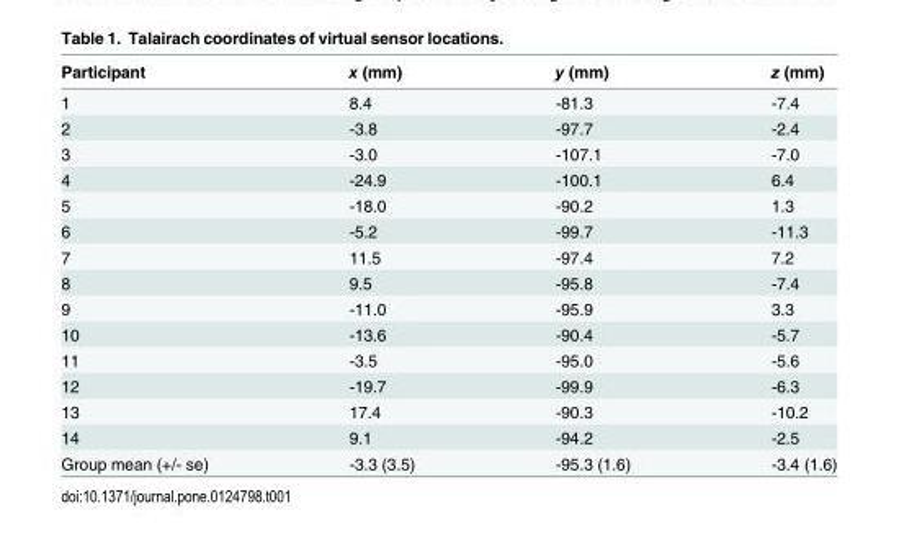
<table><thead><tr><td>Participant</td><td>x (mm)</td><td>y (mm)</td><td>z (mm)</td></tr></thead><tbody><tr><td>1</td><td>8.4</td><td>-81.3</td><td>-7.4</td></tr><tr><td>2</td><td>-3.8</td><td>-97.7</td><td>-2.4</td></tr><tr><td>3</td><td>-3.0</td><td>-107.1</td><td>-7.0</td></tr><tr><td>4</td><td>-24.9</td><td>-100.1</td><td>6.4</td></tr><tr><td>5</td><td>-18.0</td><td>-90.2</td><td>1.3</td></tr><tr><td>6</td><td>-5.2</td><td>-99.7</td><td>-11.3</td></tr><tr><td>7</td><td>11.5</td><td>-97.4</td><td>7.2</td></tr><tr><td>8</td><td>9.5</td><td>-95.8</td><td>-7.4</td></tr><tr><td>9</td><td>-11.0</td><td>-95.9</td><td>3.3</td></tr><tr><td>10</td><td>-13.6</td><td>-90.4</td><td>-5.7</td></tr><tr><td>11</td><td>-3.5</td><td>-95.0</td><td>-5.6</td></tr><tr><td>12</td><td>-19.7</td><td>-99.9</td><td>-6.3</td></tr><tr><td>13</td><td>17.4</td><td>-90.3</td><td>-10.2</td></tr><tr><td>14</td><td>9.1</td><td>-94.2</td><td>-2.5</td></tr><tr><td>Group mean (+/- se)</td><td>-3.3 (3.5)</td><td>-95.3 (1.6)</td><td>-3.4 (1.6)</td></tr></tbody></table>